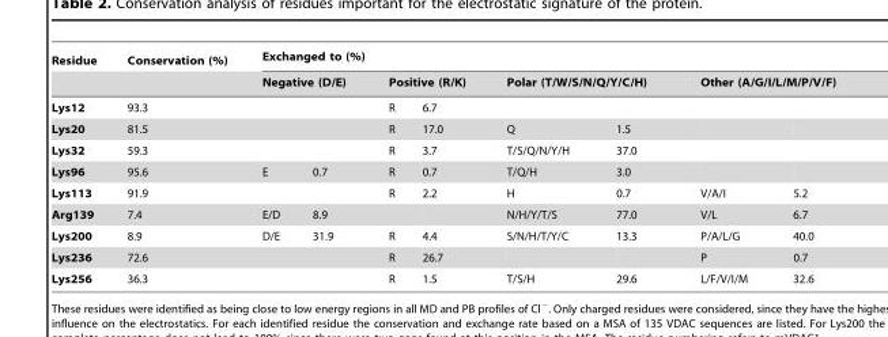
<table><thead><tr><td rowspan="3">Residue Lys12</td><td rowspan="3">Conservation (%) 93.3</td><td colspan="8">Exchanged to (%)</td></tr><tr><td colspan="2">Negative (D/E)</td><td colspan="2">Positive (R/K)</td><td colspan="2">Polar (T/W/S/N/Q/Y/C/H)</td><td colspan="2">Other (A/G/I/L/M/P/V/F)</td></tr><tr><td></td><td></td><td>R</td><td>6.7</td><td></td><td></td><td></td><td></td></tr></thead><tbody><tr><td>Lys20</td><td>81.5</td><td></td><td></td><td>R</td><td>17.0</td><td>Q</td><td>1.5</td><td></td><td></td></tr><tr><td>Lys32</td><td>59.3</td><td></td><td></td><td>R</td><td>3.7</td><td>T/S/Q/N/Y/H</td><td>37.0</td><td></td><td></td></tr><tr><td>Lys96</td><td>95.6</td><td>E</td><td>0.7</td><td>R</td><td>0.7</td><td>T/Q/H</td><td>3.0</td><td></td><td></td></tr><tr><td>Lys113</td><td>91.9</td><td></td><td></td><td>R</td><td>2.2</td><td>H</td><td>0.7</td><td>V/A/I</td><td>5.2</td></tr><tr><td>Arg139</td><td>7.4</td><td>E/D</td><td>8.9</td><td></td><td></td><td>N/H/Y/T/S</td><td>77.0</td><td>V/L</td><td>6.7</td></tr><tr><td>Lys200</td><td>8.9</td><td>D/E</td><td>31.9</td><td>R</td><td>4.4</td><td>S/N/H/T/Y/C</td><td>13.3</td><td>P/A/L/G</td><td>40.0</td></tr><tr><td>Lys236</td><td>72.6</td><td></td><td></td><td>R</td><td>26.7</td><td></td><td></td><td>P</td><td>0.7</td></tr><tr><td>Lys256</td><td>36.3</td><td></td><td></td><td>R</td><td>1.5</td><td>T/S/H</td><td>29.6</td><td>L/F/V/I/M</td><td>32.6</td></tr></tbody></table>